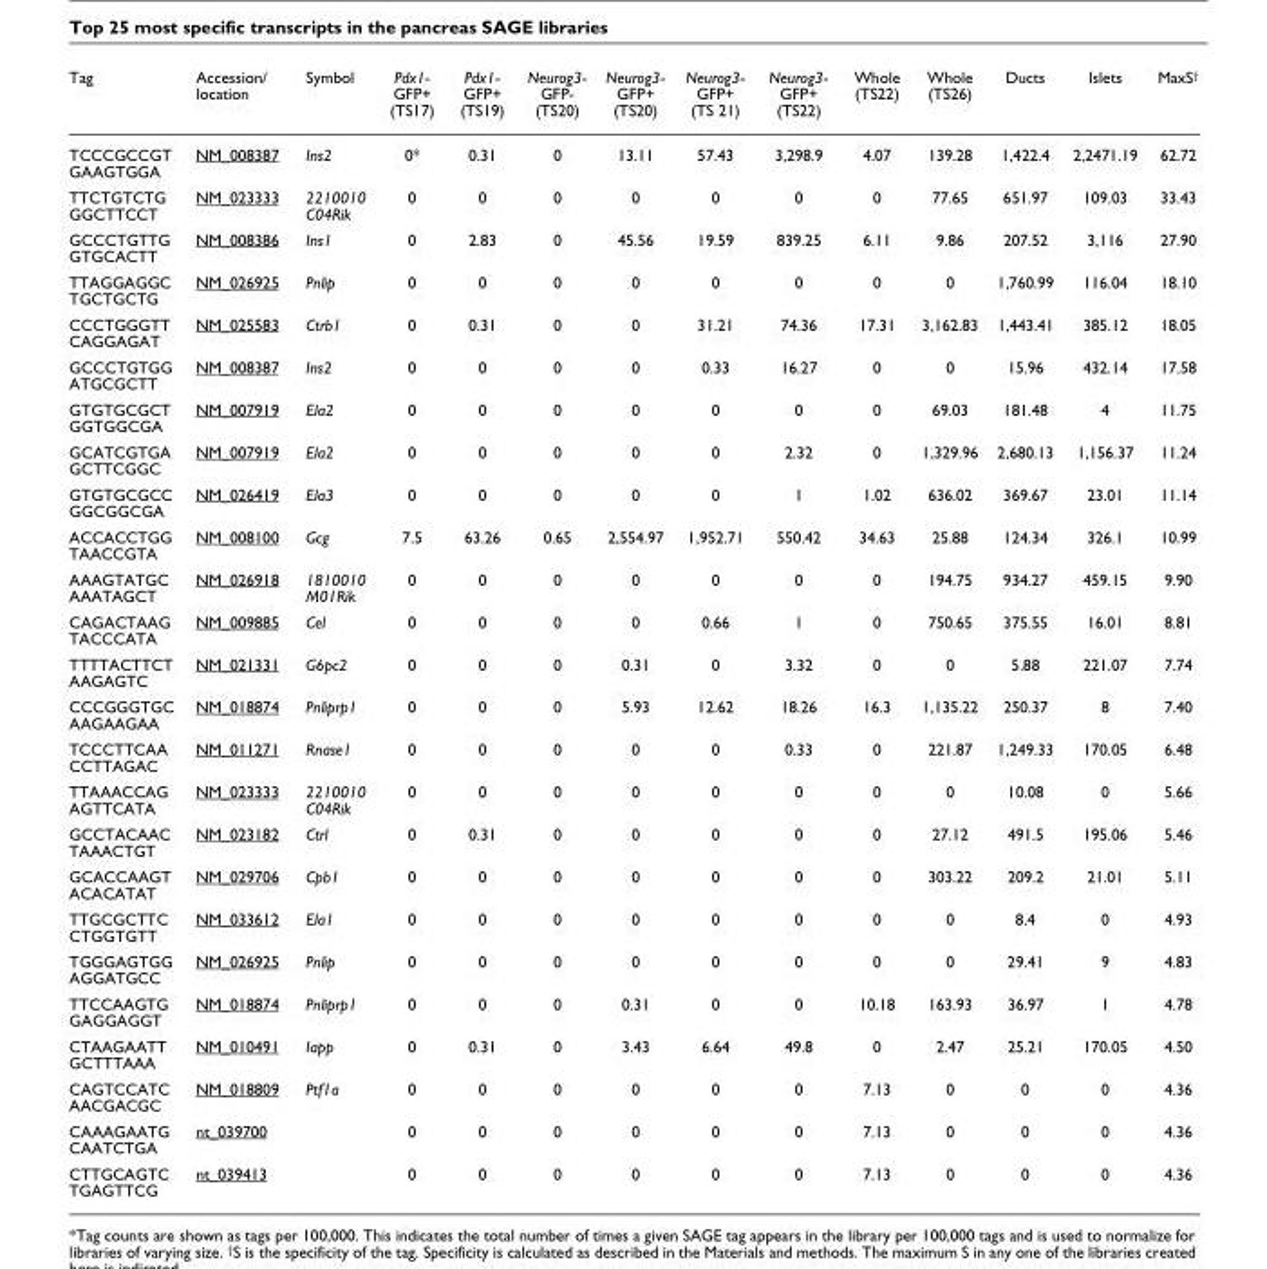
<table><thead><tr><td>Tag</td><td>Accession/ location</td><td>Symbol</td><td>Pdx1- GFP+ (TS17)</td><td>Pdx1- GFP+ (TS19)</td><td>Neurog3- GFP- (TS20)</td><td>Neurog3- GFP+ (TS20)</td><td>Neurog3- GFP+ (TS 21)</td><td>Neurog3- GFP+ (TS22)</td><td>Whole (TS22)</td><td>Whole (TS26)</td><td>Ducts</td><td>Islets</td><td>MaxS<sup>†</sup></td></tr></thead><tbody><tr><td>TCCCGCCGT GAAGTGGA</td><td>NM_008387</td><td>Ins2</td><td>0*</td><td>0.31</td><td>0</td><td>13.11</td><td>57.43</td><td>3,298.9</td><td>4.07</td><td>139.28</td><td>1,422.4</td><td>2,2471.19</td><td>62.72</td></tr><tr><td>TTCTGTCTG GGCTTCCT</td><td>NM_023333</td><td>2210010 C04Rik</td><td>0</td><td>0</td><td>0</td><td>0</td><td>0</td><td>0</td><td>0</td><td>77.65</td><td>651.97</td><td>109.03</td><td>33.43</td></tr><tr><td>GCCCTGTTG GTGCACTT</td><td>NM_008386</td><td>Ins1</td><td>0</td><td>2.83</td><td>0</td><td>45.56</td><td>19.59</td><td>839.25</td><td>6.11</td><td>9.86</td><td>207.52</td><td>3,116</td><td>27.90</td></tr><tr><td>TTAGGAGGC TGCTGCTG</td><td>NM_026925</td><td>Pnlip</td><td>0</td><td>0</td><td>0</td><td>0</td><td>0</td><td>0</td><td>0</td><td>0</td><td>1,760.99</td><td>116.04</td><td>18.10</td></tr><tr><td>CCCTGGGTT CAGGAGAT</td><td>NM_025583</td><td>Ctrb1</td><td>0</td><td>0.31</td><td>0</td><td>0</td><td>31.21</td><td>74.36</td><td>17.31</td><td>3,162.83</td><td>1,443.41</td><td>385.12</td><td>18.05</td></tr><tr><td>GCCCTGTGG ATGCGCTT</td><td>NM_008387</td><td>Ins2</td><td>0</td><td>0</td><td>0</td><td>0</td><td>0.33</td><td>16.27</td><td>0</td><td>0</td><td>15.96</td><td>432.14</td><td>17.58</td></tr><tr><td>GTGTGCGCT GGTGGCGA</td><td>NM_007919</td><td>Ela2</td><td>0</td><td>0</td><td>0</td><td>0</td><td>0</td><td>0</td><td>0</td><td>69.03</td><td>181.48</td><td>4</td><td>11.75</td></tr><tr><td>GCATCGTGA GCTTCGGC</td><td>NM_007919</td><td>Ela2</td><td>0</td><td>0</td><td>0</td><td>0</td><td>0</td><td>2.32</td><td>0</td><td>1,329.96</td><td>2,680.13</td><td>1,156.37</td><td>11.24</td></tr><tr><td>GTGTGCGCC GGCGGCGA</td><td>NM_026419</td><td>Ela3</td><td>0</td><td>0</td><td>0</td><td>0</td><td>0</td><td>1</td><td>1.02</td><td>636.02</td><td>369.67</td><td>23.01</td><td>11.14</td></tr><tr><td>ACCACCTGG TAACCGTA</td><td>NM_008100</td><td>Gcg</td><td>7.5</td><td>63.26</td><td>0.65</td><td>2,554.97</td><td>1,952.71</td><td>550.42</td><td>34.63</td><td>25.88</td><td>124.34</td><td>326.1</td><td>10.99</td></tr><tr><td>AAAGTATGC AAATAGCT</td><td>NM_026918</td><td>1810010 M01Rik</td><td>0</td><td>0</td><td>0</td><td>0</td><td>0</td><td>0</td><td>0</td><td>194.75</td><td>934.27</td><td>459.15</td><td>9.90</td></tr><tr><td>CAGACTAAG TACCCATA</td><td>NM_009885</td><td>Cel</td><td>0</td><td>0</td><td>0</td><td>0</td><td>0.66</td><td>1</td><td>0</td><td>750.65</td><td>375.55</td><td>16.01</td><td>8.81</td></tr><tr><td>TTTTACTTCT AAGAGTC</td><td>NM_021331</td><td>G6pc2</td><td>0</td><td>0</td><td>0</td><td>0.31</td><td>0</td><td>3.32</td><td>0</td><td>0</td><td>5.88</td><td>221.07</td><td>7.74</td></tr><tr><td>CCCGGGTGC AAGAAGAA</td><td>NM_018874</td><td>Pnliprp1</td><td>0</td><td>0</td><td>0</td><td>5.93</td><td>12.62</td><td>18.26</td><td>16.3</td><td>1,135.22</td><td>250.37</td><td>8</td><td>7.40</td></tr><tr><td>TCCCTTCAA CCTTAGAC</td><td>NM_011271</td><td>Rnase1</td><td>0</td><td>0</td><td>0</td><td>0</td><td>0</td><td>0.33</td><td>0</td><td>221.87</td><td>1,249.33</td><td>170.05</td><td>6.48</td></tr><tr><td>TTAAACCAG AGTTCATA</td><td>NM_023333</td><td>2210010 C04Rik</td><td>0</td><td>0</td><td>0</td><td>0</td><td>0</td><td>0</td><td>0</td><td>0</td><td>10.08</td><td>0</td><td>5.66</td></tr><tr><td>GCCTACAAC TAAACTGT</td><td>NM_023182</td><td>Ctrl</td><td>0</td><td>0.31</td><td>0</td><td>0</td><td>0</td><td>0</td><td>0</td><td>27.12</td><td>491.5</td><td>195.06</td><td>5.46</td></tr><tr><td>GCACCAAGT ACACATAT</td><td>NM_029706</td><td>Cpb1</td><td>0</td><td>0</td><td>0</td><td>0</td><td>0</td><td>0</td><td>0</td><td>303.22</td><td>209.2</td><td>21.01</td><td>5.11</td></tr><tr><td>TTGCGCTTC CTGGTGTT</td><td>NM_033612</td><td>Ela1</td><td>0</td><td>0</td><td>0</td><td>0</td><td>0</td><td>0</td><td>0</td><td>0</td><td>8.4</td><td>0</td><td>4.93</td></tr><tr><td>TGGGAGTGG AGGATGCC</td><td>NM_026925</td><td>Pnlip</td><td>0</td><td>0</td><td>0</td><td>0</td><td>0</td><td>0</td><td>0</td><td>0</td><td>29.41</td><td>9</td><td>4.83</td></tr><tr><td>TTCCAAGTG GAGGAGGT</td><td>NM_018874</td><td>Pnliprp1</td><td>0</td><td>0</td><td>0</td><td>0.31</td><td>0</td><td>0</td><td>10.18</td><td>163.93</td><td>36.97</td><td>1</td><td>4.78</td></tr><tr><td>CTAAGAATT GCTTTAAA</td><td>NM_010491</td><td>Iapp</td><td>0</td><td>0.31</td><td>0</td><td>3.43</td><td>6.64</td><td>49.8</td><td>0</td><td>2.47</td><td>25.21</td><td>170.05</td><td>4.50</td></tr><tr><td>CAGTCCATC AACGACGC</td><td>NM_018809</td><td>Ptf1a</td><td>0</td><td>0</td><td>0</td><td>0</td><td>0</td><td>0</td><td>7.13</td><td>0</td><td>0</td><td>0</td><td>4.36</td></tr><tr><td>CAAAGAATG CAATCTGA</td><td>nt_039700</td><td></td><td>0</td><td>0</td><td>0</td><td>0</td><td>0</td><td>0</td><td>7.13</td><td>0</td><td>0</td><td>0</td><td>4.36</td></tr><tr><td>CTTGCAGTC TGAGTTCG</td><td>nt_039413</td><td></td><td>0</td><td>0</td><td>0</td><td>0</td><td>0</td><td>0</td><td>7.13</td><td>0</td><td>0</td><td>0</td><td>4.36</td></tr></tbody></table>